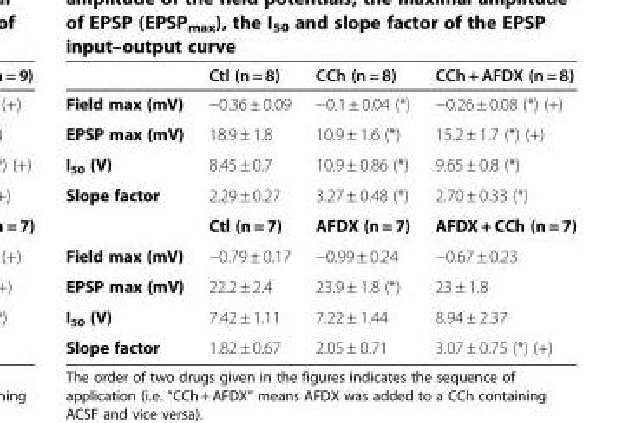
<table><thead><tr><td></td><td>Ctl (n = 8)</td><td>CCh (n = 8)</td><td>CCh + AFDX (n = 8)</td></tr></thead><tbody><tr><td>Field max (mV)</td><td>−0.36 ± 0.09</td><td>−0.1 ± 0.04 (*)</td><td>−0.26 ± 0.08 (*) (+)</td></tr><tr><td>EPSP max (mV)</td><td>18.9 ± 1.8</td><td>10.9 ± 1.6 (*)</td><td>15.2 ± 1.7 (*) (+)</td></tr><tr><td>I<sub>50</sub> (V)</td><td>8.45 ± 0.7</td><td>10.9 ± 0.86 (*)</td><td>9.65 ± 0.8 (*)</td></tr><tr><td rowspan="2">Slope factor</td><td>2.29 ± 0.27</td><td>3.27 ± 0.48 (*)</td><td>2.70 ± 0.33 (*)</td></tr><tr><td>Ctl (n = 7)</td><td>AFDX (n = 7)</td><td>AFDX + CCh (n = 7)</td></tr><tr><td>Field max (mV)</td><td>−0.79 ± 0.17</td><td>−0.99 ± 0.24</td><td>−0.67 ± 0.23</td></tr><tr><td>EPSP max (mV)</td><td>22.2 ± 2.4</td><td>23.9 ± 1.8 (*)</td><td>23 ± 1.8</td></tr><tr><td>I<sub>50</sub> (V)</td><td>7.42 ± 1.11</td><td>7.22 ± 1.44</td><td>8.94 ± 2.37</td></tr><tr><td>Slope factor</td><td>1.82 ± 0.67</td><td>2.05 ± 0.71</td><td>3.07 ± 0.75 (*) (+)</td></tr></tbody></table>